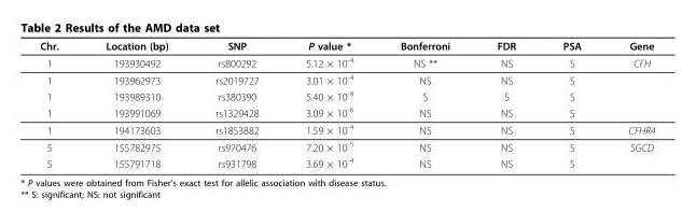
<table><thead><tr><td>Chr.</td><td>Location (bp)</td><td>SNP</td><td>P value *</td><td>Bonferroni</td><td>FDR</td><td>PSA</td><td>Gene</td></tr></thead><tbody><tr><td>1</td><td>193930492</td><td>rs800292</td><td>5.12 × 10<sup>-4</sup></td><td>NS **</td><td>NS</td><td>S</td><td>CFH</td></tr><tr><td>1</td><td>193962973</td><td>rs2019727</td><td>3.01 × 10<sup>-4</sup></td><td>NS</td><td>NS</td><td>S</td><td></td></tr><tr><td>1</td><td>193989310</td><td>rs380390</td><td>5.40 × 10<sup>-8</sup></td><td>S</td><td>S</td><td>S</td><td></td></tr><tr><td>1</td><td>193991069</td><td>rs1329428</td><td>3.09 × 10<sup>-6</sup></td><td>NS</td><td>NS</td><td>S</td><td></td></tr><tr><td>1</td><td>194173603</td><td>rs1853882</td><td>1.59 × 10<sup>-4</sup></td><td>NS</td><td>NS</td><td>S</td><td>CFHR4</td></tr><tr><td>5</td><td>155782975</td><td>rs970476</td><td>7.20 × 10<sup>-5</sup></td><td>NS</td><td>NS</td><td>S</td><td>SGCD</td></tr><tr><td>5</td><td>155791718</td><td>rs931798</td><td>3.69 × 10<sup>-4</sup></td><td>NS</td><td>NS</td><td>S</td><td></td></tr></tbody></table>